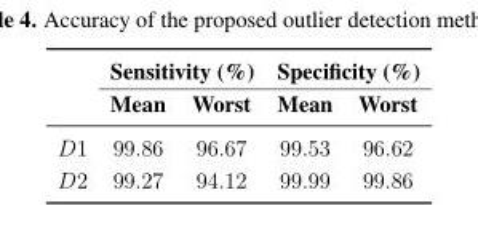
<table><thead><tr><td rowspan="2"></td><td colspan="2">Sensitivity (%)</td><td colspan="2">Specificity (%)</td></tr><tr><td>Mean</td><td>Worst</td><td>Mean</td><td>Worst</td></tr></thead><tbody><tr><td>D1</td><td>99.86</td><td>96.67</td><td>99.53</td><td>96.62</td></tr><tr><td>D2</td><td>99.27</td><td>94.12</td><td>99.99</td><td>99.86</td></tr></tbody></table>